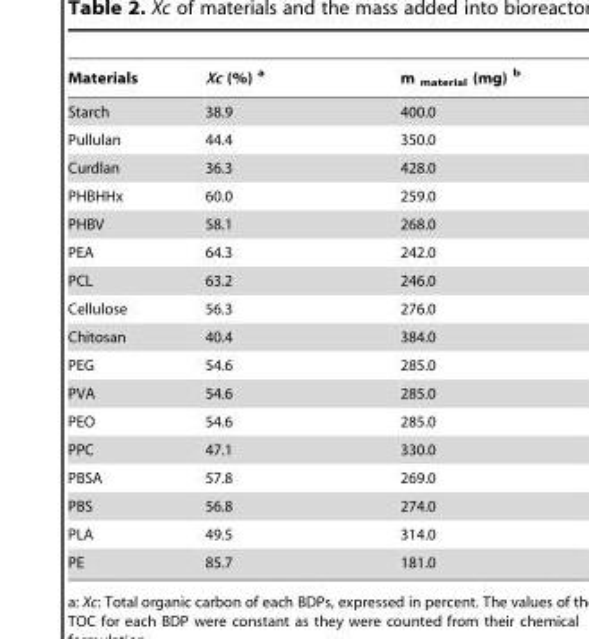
<table><thead><tr><td>Materials</td><td>Xc (%) <sup>a</sup></td><td>m <sub>material</sub> (mg) <sup>b</sup></td></tr></thead><tbody><tr><td>Starch</td><td>38.9</td><td>400.0</td></tr><tr><td>Pullulan</td><td>44.4</td><td>350.0</td></tr><tr><td>Curdlan</td><td>36.3</td><td>428.0</td></tr><tr><td>PHBHHx</td><td>60.0</td><td>259.0</td></tr><tr><td>PHBV</td><td>58.1</td><td>268.0</td></tr><tr><td>PEA</td><td>64.3</td><td>242.0</td></tr><tr><td>PCL</td><td>63.2</td><td>246.0</td></tr><tr><td>Cellulose</td><td>56.3</td><td>276.0</td></tr><tr><td>Chitosan</td><td>40.4</td><td>384.0</td></tr><tr><td>PEG</td><td>54.6</td><td>285.0</td></tr><tr><td>PVA</td><td>54.6</td><td>285.0</td></tr><tr><td>PEO</td><td>54.6</td><td>285.0</td></tr><tr><td>PPC</td><td>47.1</td><td>330.0</td></tr><tr><td>PBSA</td><td>57.8</td><td>269.0</td></tr><tr><td>PBS</td><td>56.8</td><td>274.0</td></tr><tr><td>PLA</td><td>49.5</td><td>314.0</td></tr><tr><td>PE</td><td>85.7</td><td>181.0</td></tr></tbody></table>